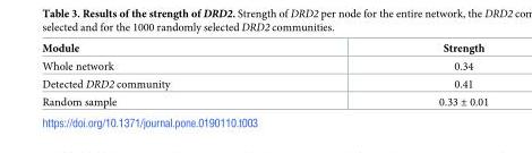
<table><thead><tr><td>Module</td><td>Strength</td></tr></thead><tbody><tr><td>Whole network</td><td>0.34</td></tr><tr><td>Detected DRD2 community</td><td>0.41</td></tr><tr><td>Random sample</td><td>0.33 ± 0.01</td></tr></tbody></table>